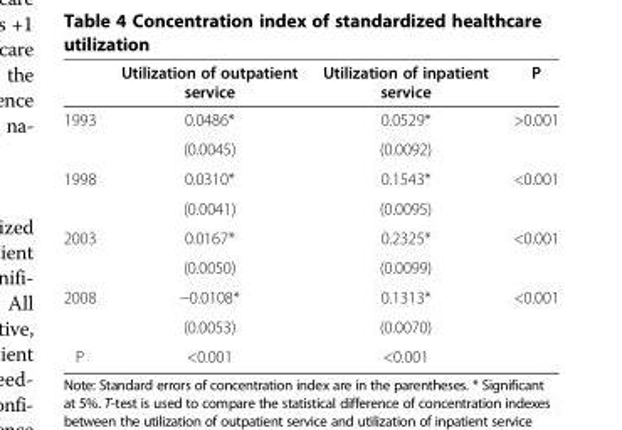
<table><thead><tr><td></td><td>Utilization of outpatient service</td><td>Utilization of inpatient service</td><td>P</td></tr></thead><tbody><tr><td rowspan="2">1993</td><td>0.0486*</td><td>0.0529*</td><td>&gt;0.001</td></tr><tr><td>(0.0045)</td><td>(0.0092)</td><td></td></tr><tr><td rowspan="2">1998</td><td>0.0310*</td><td>0.1543*</td><td>&lt;0.001</td></tr><tr><td>(0.0041)</td><td>(0.0095)</td><td></td></tr><tr><td rowspan="2">2003</td><td>0.0167*</td><td>0.2325*</td><td>&lt;0.001</td></tr><tr><td>(0.0050)</td><td>(0.0099)</td><td></td></tr><tr><td rowspan="2">2008</td><td>−0.0108*</td><td>0.1313*</td><td>&lt;0.001</td></tr><tr><td>(0.0053)</td><td>(0.0070)</td><td></td></tr><tr><td>P</td><td>&lt;0.001</td><td>&lt;0.001</td><td></td></tr></tbody></table>